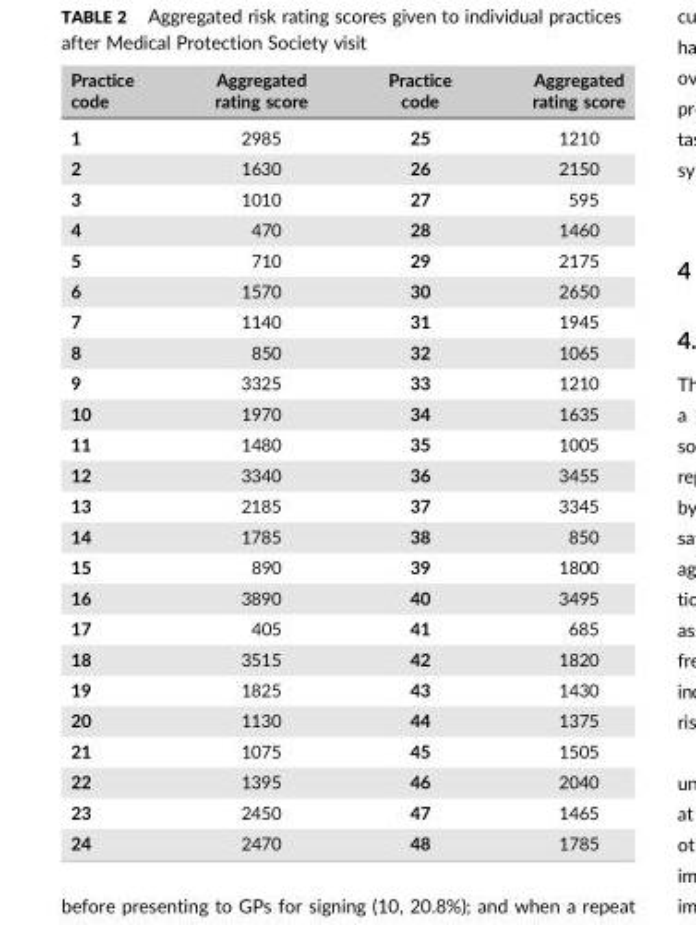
<table><thead><tr><td>Practice code</td><td>Aggregated rating score</td><td>Practice code</td><td>Aggregated rating score</td></tr></thead><tbody><tr><td>1</td><td>2985</td><td>25</td><td>1210</td></tr><tr><td>2</td><td>1630</td><td>26</td><td>2150</td></tr><tr><td>3</td><td>1010</td><td>27</td><td>595</td></tr><tr><td>4</td><td>470</td><td>28</td><td>1460</td></tr><tr><td>5</td><td>710</td><td>29</td><td>2175</td></tr><tr><td>6</td><td>1570</td><td>30</td><td>2650</td></tr><tr><td>7</td><td>1140</td><td>31</td><td>1945</td></tr><tr><td>8</td><td>850</td><td>32</td><td>1065</td></tr><tr><td>9</td><td>3325</td><td>33</td><td>1210</td></tr><tr><td>10</td><td>1970</td><td>34</td><td>1635</td></tr><tr><td>11</td><td>1480</td><td>35</td><td>1005</td></tr><tr><td>12</td><td>3340</td><td>36</td><td>3455</td></tr><tr><td>13</td><td>2185</td><td>37</td><td>3345</td></tr><tr><td>14</td><td>1785</td><td>38</td><td>850</td></tr><tr><td>15</td><td>890</td><td>39</td><td>1800</td></tr><tr><td>16</td><td>3890</td><td>40</td><td>3495</td></tr><tr><td>17</td><td>405</td><td>41</td><td>685</td></tr><tr><td>18</td><td>3515</td><td>42</td><td>1820</td></tr><tr><td>19</td><td>1825</td><td>43</td><td>1430</td></tr><tr><td>20</td><td>1130</td><td>44</td><td>1375</td></tr><tr><td>21</td><td>1075</td><td>45</td><td>1505</td></tr><tr><td>22</td><td>1395</td><td>46</td><td>2040</td></tr><tr><td>23</td><td>2450</td><td>47</td><td>1465</td></tr><tr><td>24</td><td>2470</td><td>48</td><td>1785</td></tr></tbody></table>